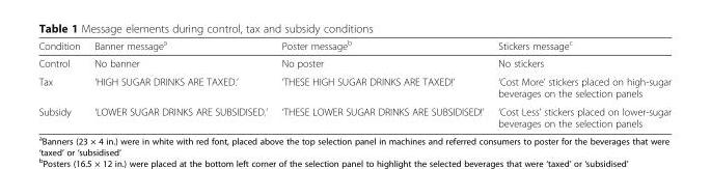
<table><thead><tr><td>Condition</td><td>Banner message<sup>a</sup></td><td>Poster message<sup>b</sup></td><td>Stickers message<sup>c</sup></td></tr></thead><tbody><tr><td>Control</td><td>No banner</td><td>No poster</td><td>No stickers</td></tr><tr><td>Tax</td><td>‘HIGH SUGAR DRINKS ARE TAXED.’</td><td>‘THESE HIGH SUGAR DRINKS ARE TAXED!’</td><td>‘Cost More’ stickers placed on high-sugar beverages on the selection panels</td></tr><tr><td>Subsidy</td><td>‘LOWER SUGAR DRINKS ARE SUBSIDISED.’</td><td>‘THESE LOWER SUGAR DRINKS ARE SUBSIDISED!’</td><td>‘Cost Less’ stickers placed on lower-sugar beverages on the selection panels</td></tr></tbody></table>